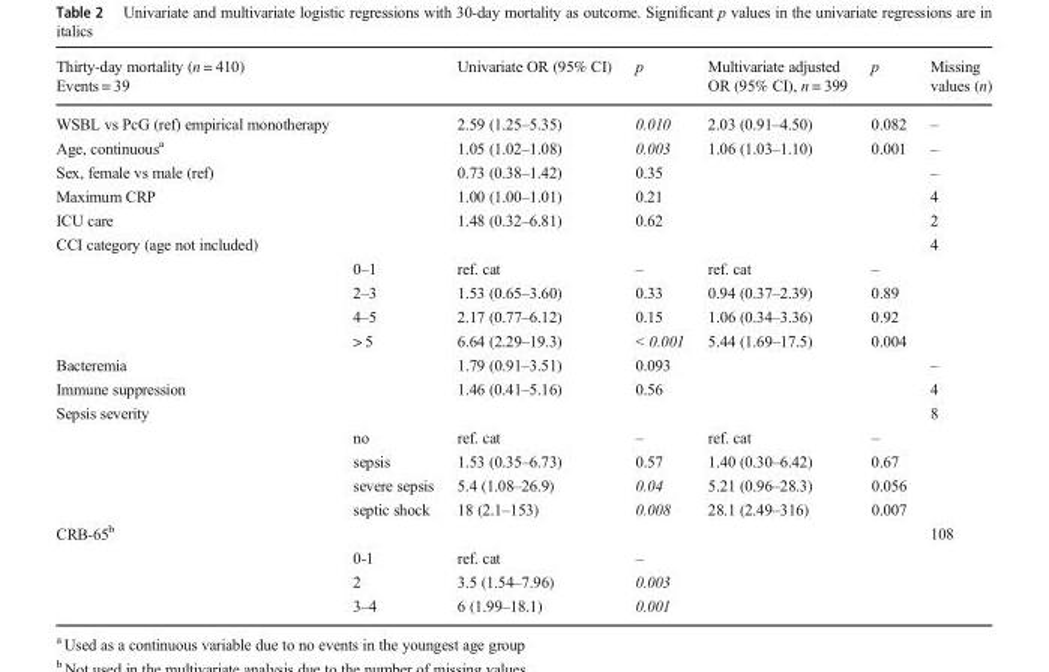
<table><thead><tr><td>Thirty-day mortality (n = 410) Events = 39</td><td></td><td>Univariate OR (95% CI)</td><td>p</td><td>Multivariate adjusted OR (95% CI), n = 399</td><td>p</td><td>Missing values (n)</td></tr></thead><tbody><tr><td>WSBL vs PcG (ref) empirical monotherapy</td><td></td><td>2.59 (1.25–5.35)</td><td>0.010</td><td>2.03 (0.91–4.50)</td><td>0.082</td><td>–</td></tr><tr><td>Age, continuous<sup>a</sup></td><td></td><td>1.05 (1.02–1.08)</td><td>0.003</td><td>1.06 (1.03–1.10)</td><td>0.001</td><td>–</td></tr><tr><td>Sex, female vs male (ref)</td><td></td><td>0.73 (0.38–1.42)</td><td>0.35</td><td></td><td></td><td>–</td></tr><tr><td>Maximum CRP</td><td></td><td>1.00 (1.00–1.01)</td><td>0.21</td><td></td><td></td><td>4</td></tr><tr><td>ICU care</td><td></td><td>1.48 (0.32–6.81)</td><td>0.62</td><td></td><td></td><td>2</td></tr><tr><td rowspan="5">CCI category (age not included)</td><td></td><td></td><td></td><td></td><td></td><td>4</td></tr><tr><td>0–1</td><td>ref. cat</td><td>–</td><td>ref. cat</td><td>–</td><td></td></tr><tr><td>2–3</td><td>1.53 (0.65–3.60)</td><td>0.33</td><td>0.94 (0.37–2.39)</td><td>0.89</td><td></td></tr><tr><td>4–5</td><td>2.17 (0.77–6.12)</td><td>0.15</td><td>1.06 (0.34–3.36)</td><td>0.92</td><td></td></tr><tr><td>&gt; 5</td><td>6.64 (2.29–19.3)</td><td>&lt; 0.001</td><td>5.44 (1.69–17.5)</td><td>0.004</td><td></td></tr><tr><td>Bacteremia</td><td></td><td>1.79 (0.91–3.51)</td><td>0.093</td><td></td><td></td><td>–</td></tr><tr><td>Immune suppression</td><td></td><td>1.46 (0.41–5.16)</td><td>0.56</td><td></td><td></td><td>4</td></tr><tr><td rowspan="5">Sepsis severity</td><td></td><td></td><td></td><td></td><td></td><td>8</td></tr><tr><td>no</td><td>ref. cat</td><td>–</td><td>ref. cat</td><td>–</td><td></td></tr><tr><td>sepsis</td><td>1.53 (0.35–6.73)</td><td>0.57</td><td>1.40 (0.30–6.42)</td><td>0.67</td><td></td></tr><tr><td>severe sepsis</td><td>5.4 (1.08–26.9)</td><td>0.04</td><td>5.21 (0.96–28.3)</td><td>0.056</td><td></td></tr><tr><td>septic shock</td><td>18 (2.1–153)</td><td>0.008</td><td>28.1 (2.49–316)</td><td>0.007</td><td></td></tr><tr><td rowspan="4">CRB-65<sup>b</sup></td><td></td><td></td><td></td><td></td><td></td><td>108</td></tr><tr><td>0-1</td><td>ref. cat</td><td>–</td><td></td><td></td><td></td></tr><tr><td>2</td><td>3.5 (1.54–7.96)</td><td>0.003</td><td></td><td></td><td></td></tr><tr><td>3–4</td><td>6 (1.99–18.1)</td><td>0.001</td><td></td><td></td><td></td></tr></tbody></table>